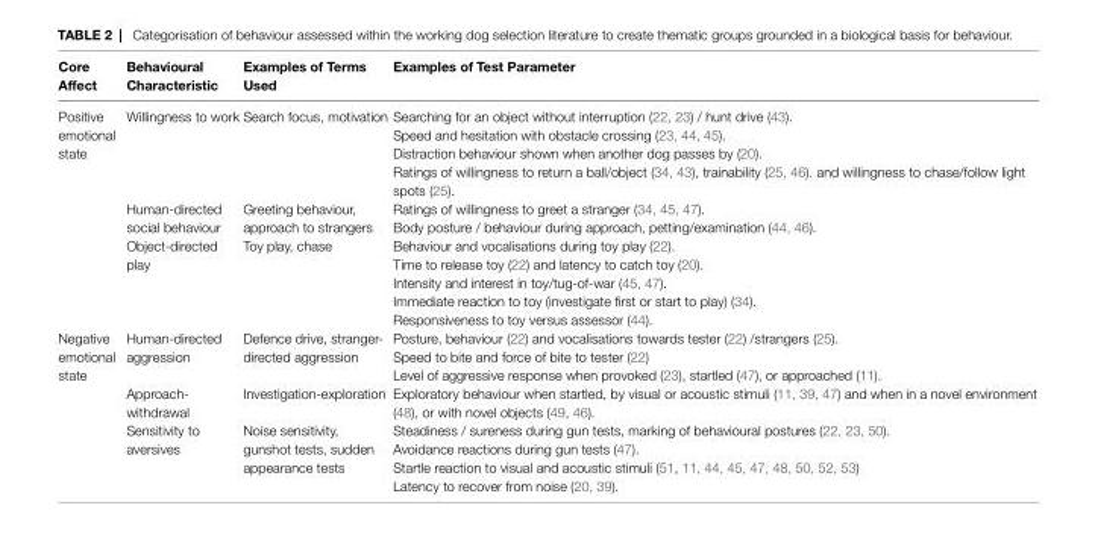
<table><thead><tr><td>core affect</td><td>Behavioural characteristic</td><td>examples of terms Used</td><td>examples of test Parameter</td></tr></thead><tbody><tr><td rowspan="3">Positive emotional state</td><td>Willingness to work</td><td>Search focus, motivation</td><td>Searching for an object without interruption (22, 23) / hunt drive (43). Speed and hesitation with obstacle crossing (23, 44, 45). Distraction behaviour shown when another dog passes by (20). Ratings of willingness to return a ball/object (34, 43), trainability (25, 46). and willingness to chase/follow light spots (25).</td></tr><tr><td>Human-directed social behaviour</td><td>Greeting behaviour, approach to strangers</td><td>Ratings of willingness to greet a stranger (34, 45, 47). Body posture / behaviour during approach, petting/examination (44, 46).</td></tr><tr><td>Object-directed play</td><td>Toy play, chase</td><td>Behaviour and vocalisations during toy play (22). Time to release toy (22) and latency to catch toy (20). Intensity and interest in toy/tug-of-war (45, 47). Immediate reaction to toy (investigate first or start to play) (34). Responsiveness to toy versus assessor (44).</td></tr><tr><td rowspan="3">Negative emotional state</td><td>Human-directed aggression</td><td>Defence drive, stranger- directed aggression</td><td>Posture, behaviour (22) and vocalisations towards tester (22) /strangers (25). Speed to bite and force of bite to tester (22) Level of aggressive response when provoked (23), startled (47), or approached (11).</td></tr><tr><td>Approach- withdrawal</td><td>Investigation-exploration</td><td>Exploratory behaviour when startled, by visual or acoustic stimuli (11, 39, 47) and when in a novel environment (48), or with novel objects (49, 46).</td></tr><tr><td>Sensitivity to aversives</td><td>Noise sensitivity, gunshot tests, sudden appearance tests</td><td>Steadiness / sureness during gun tests, marking of behavioural postures (22, 23, 50). Avoidance reactions during gun tests (47). Startle reaction to visual and acoustic stimuli (51, 11, 44, 45, 47, 48, 50, 52, 53) Latency to recover from noise (20, 39).</td></tr></tbody></table>